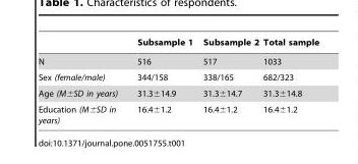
<table><thead><tr><td></td><td>Subsample 1</td><td>Subsample 2</td><td>Total sample</td></tr></thead><tbody><tr><td>N</td><td>516</td><td>517</td><td>1033</td></tr><tr><td>Sex (female/male)</td><td>344/158</td><td>338/165</td><td>682/323</td></tr><tr><td>Age (M±SD in years)</td><td>31.3±14.9</td><td>31.3±14.7</td><td>31.3±14.8</td></tr><tr><td>Education (M±SD in years)</td><td>16.4±1.2</td><td>16.4±1.2</td><td>16.4±1.2</td></tr></tbody></table>